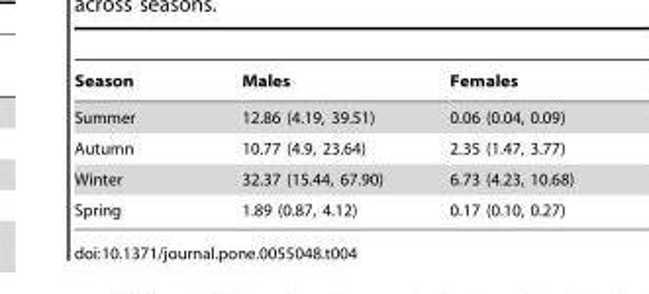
<table><thead><tr><td>Season</td><td>Males</td><td>Females</td></tr></thead><tbody><tr><td>Summer</td><td>12.86 (4.19, 39.51)</td><td>0.06 (0.04, 0.09)</td></tr><tr><td>Autumn</td><td>10.77 (4.9, 23.64)</td><td>2.35 (1.47, 3.77)</td></tr><tr><td>Winter</td><td>32.37 (15.44, 67.90)</td><td>6.73 (4.23, 10.68)</td></tr><tr><td>Spring</td><td>1.89 (0.87, 4.12)</td><td>0.17 (0.10, 0.27)</td></tr></tbody></table>